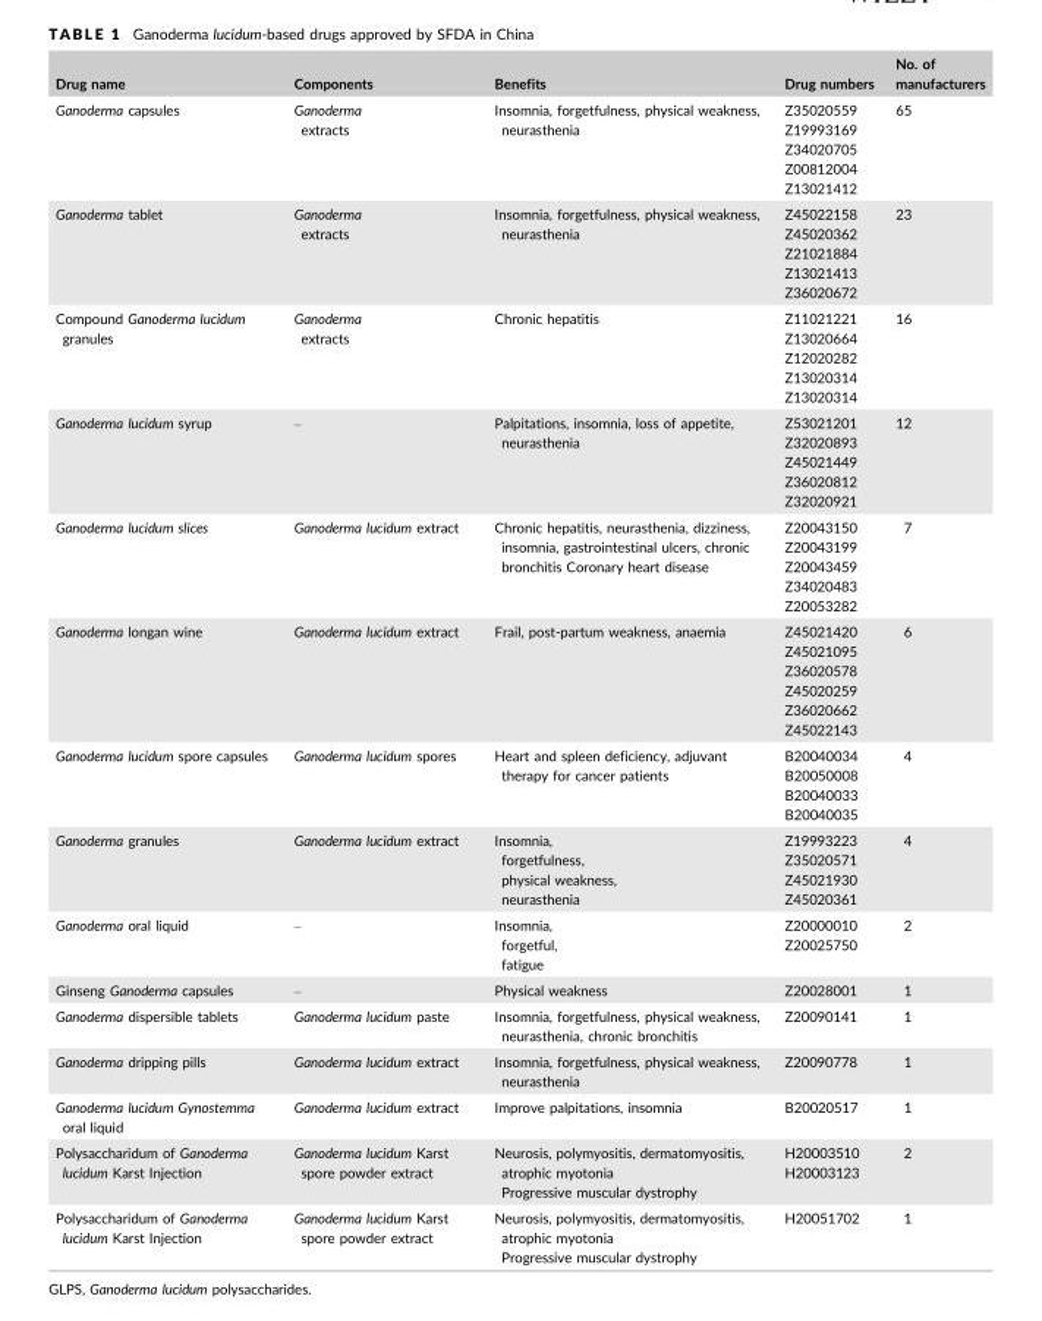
<table><thead><tr><td>Drug name</td><td>Components</td><td>Benefits</td><td>Drug numbers</td><td>No. of manufacturers</td></tr></thead><tbody><tr><td>Ganoderma capsules</td><td>Ganoderma extracts</td><td>Insomnia, forgetfulness, physical weakness, neurasthenia</td><td>Z35020559 Z19993169 Z34020705 Z00812004 Z13021412</td><td>65</td></tr><tr><td>Ganoderma tablet</td><td>Ganoderma extracts</td><td>Insomnia, forgetfulness, physical weakness, neurasthenia</td><td>Z45022158 Z45020362 Z21021884 Z13021413 Z36020672</td><td>23</td></tr><tr><td>Compound Ganoderma lucidum granules</td><td>Ganoderma extracts</td><td>Chronic hepatitis</td><td>Z11021221 Z13020664 Z12020282 Z13020314 Z13020314</td><td>16</td></tr><tr><td>Ganoderma lucidum syrup</td><td>–</td><td>Palpitations, insomnia, loss of appetite, neurasthenia</td><td>Z53021201 Z32020893 Z45021449 Z36020812 Z32020921</td><td>12</td></tr><tr><td>Ganoderma lucidum slices</td><td>Ganoderma lucidum extract</td><td>Chronic hepatitis, neurasthenia, dizziness, insomnia, gastrointestinal ulcers, chronic bronchitis Coronary heart disease</td><td>Z20043150 Z20043199 Z20043459 Z34020483 Z20053282</td><td>7</td></tr><tr><td>Ganoderma longan wine</td><td>Ganoderma lucidum extract</td><td>Frail, post-partum weakness, anaemia</td><td>Z45021420 Z45021095 Z36020578 Z45020259 Z36020662 Z45022143</td><td>6</td></tr><tr><td>Ganoderma lucidum spore capsules</td><td>Ganoderma lucidum spores</td><td>Heart and spleen deficiency, adjuvant therapy for cancer patients</td><td>B20040034 B20050008 B20040033 B20040035</td><td>4</td></tr><tr><td>Ganoderma granules</td><td>Ganoderma lucidum extract</td><td>Insomnia, forgetfulness, physical weakness, neurasthenia</td><td>Z19993223 Z35020571 Z45021930 Z45020361</td><td>4</td></tr><tr><td>Ganoderma oral liquid</td><td>–</td><td>Insomnia, forgetful, fatigue</td><td>Z20000010 Z20025750</td><td>2</td></tr><tr><td>Ginseng Ganoderma capsules</td><td>–</td><td>Physical weakness</td><td>Z20028001</td><td>1</td></tr><tr><td>Ganoderma dispersible tablets</td><td>Ganoderma lucidum paste</td><td>Insomnia, forgetfulness, physical weakness, neurasthenia, chronic bronchitis</td><td>Z20090141</td><td>1</td></tr><tr><td>Ganoderma dripping pills</td><td>Ganoderma lucidum extract</td><td>Insomnia, forgetfulness, physical weakness, neurasthenia</td><td>Z20090778</td><td>1</td></tr><tr><td>Ganoderma lucidum Gynostemma oral liquid</td><td>Ganoderma lucidum extract</td><td>Improve palpitations, insomnia</td><td>B20020517</td><td>1</td></tr><tr><td>Polysaccharidum of Ganoderma lucidum Karst Injection</td><td>Ganoderma lucidum Karst spore powder extract</td><td>Neurosis, polymyositis, dermatomyositis, atrophic myotonia Progressive muscular dystrophy</td><td>H20003510 H20003123</td><td>2</td></tr><tr><td>Polysaccharidum of Ganoderma lucidum Karst Injection</td><td>Ganoderma lucidum Karst spore powder extract</td><td>Neurosis, polymyositis, dermatomyositis, atrophic myotonia Progressive muscular dystrophy</td><td>H20051702</td><td>1</td></tr></tbody></table>